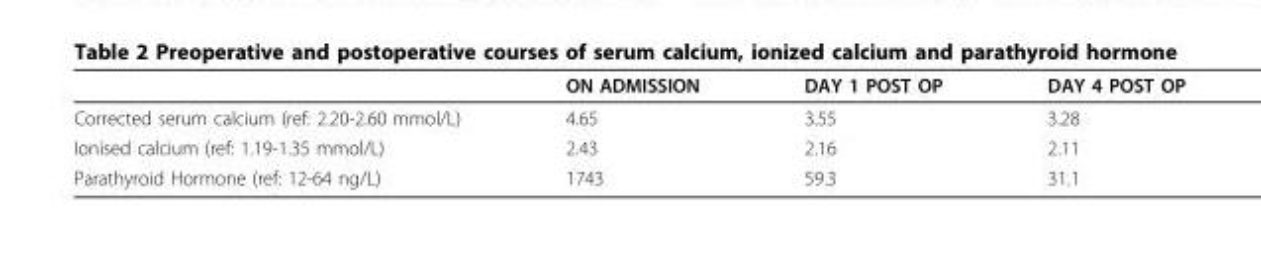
<table><thead><tr><td></td><td>ON ADMISSION</td><td>DAY 1 POST OP</td><td>DAY 4 POST OP</td></tr></thead><tbody><tr><td>Corrected serum calcium (ref: 2.20-2.60 mmol/L)</td><td>4.65</td><td>3.55</td><td>3.28</td></tr><tr><td>Ionised calcium (ref: 1.19-1.35 mmol/L)</td><td>2.43</td><td>2.16</td><td>2.11</td></tr><tr><td>Parathyroid Hormone (ref: 12-64 ng/L)</td><td>1743</td><td>59.3</td><td>31.1</td></tr></tbody></table>